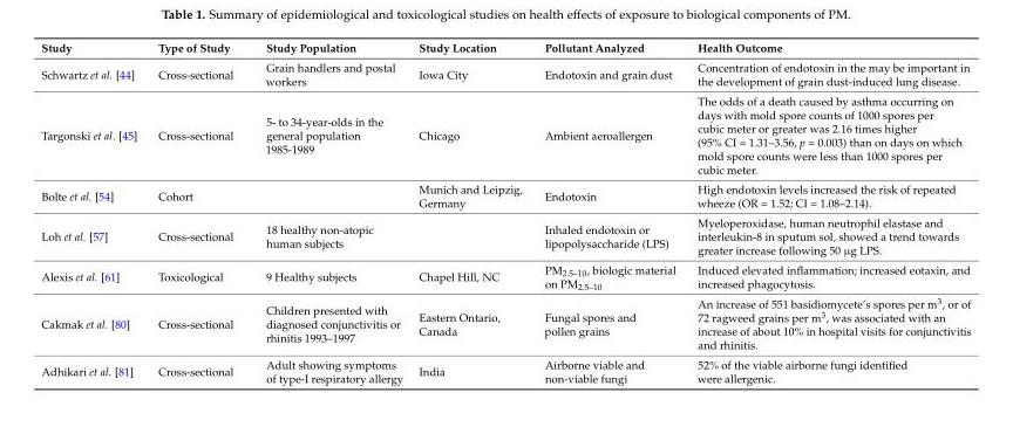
<table><thead><tr><td>Study</td><td>Type of Study</td><td>Study Population</td><td>Study Location</td><td>Pollutant Analyzed</td><td>Health Outcome</td></tr></thead><tbody><tr><td>Schwartz et al. [44]</td><td>Cross-sectional</td><td>Grain handlers and postal workers</td><td>Iowa City</td><td>Endotoxin and grain dust</td><td>Concentration of endotoxin in the may be important in the development of grain dust-induced lung disease.</td></tr><tr><td>Targonski et al. [45]</td><td>Cross-sectional</td><td>5- to 34-year-olds in the general population 1985-1989</td><td>Chicago</td><td>Ambient aeroallergen</td><td>The odds of a death caused by asthma occurring on days with mold spore counts of 1000 spores per cubic meter or greater was 2.16 times higher (95% CI = 1.31–3.56, p = 0.003) than on days on which mold spore counts were less than 1000 spores per cubic meter.</td></tr><tr><td>Bolte et al. [54]</td><td>Cohort</td><td></td><td>Munich and Leipzig, Germany</td><td>Endotoxin</td><td>High endotoxin levels increased the risk of repeated wheeze (OR = 1.52; CI = 1.08–2.14).</td></tr><tr><td>Loh et al. [57]</td><td>Cross-sectional</td><td>18 healthy non-atopic human subjects</td><td></td><td>Inhaled endotoxin or lipopolysaccharide (LPS)</td><td>Myeloperoxidase, human neutrophil elastase and interleukin-8 in sputum sol, showed a trend towards greater increase following 50 µg LPS.</td></tr><tr><td>Alexis et al. [61]</td><td>Toxicological</td><td>9 Healthy subjects</td><td>Chapel Hill, NC</td><td>PM<sub>2.5–10</sub>, biologic material on PM<sub>2.5–10</sub></td><td>Induced elevated inflammation; increased eotaxin, and increased phagocytosis.</td></tr><tr><td>Cakmak et al. [80]</td><td>Cross-sectional</td><td>Children presented with diagnosed conjunctivitis or rhinitis 1993–1997</td><td>Eastern Ontario, Canada</td><td>Fungal spores and pollen grains</td><td>An increase of 551 basidiomycete’s spores per m<sup>3</sup>, or of 72 ragweed grains per m<sup>3</sup>, was associated with an increase of about 10% in hospital visits for conjunctivitis and rhinitis.</td></tr><tr><td>Adhikari et al. [81]</td><td>Cross-sectional</td><td>Adult showing symptoms of type-I respiratory allergy</td><td>India</td><td>Airborne viable and non-viable fungi</td><td>52% of the viable airborne fungi identified were allergenic.</td></tr></tbody></table>